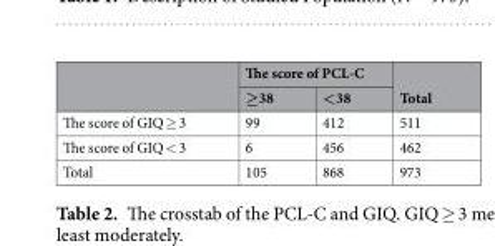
<table><thead><tr><td rowspan="2"></td><td colspan="2">The score of PCL-C</td><td rowspan="2">Total</td></tr><tr><td>≥38</td><td>&lt;38</td></tr></thead><tbody><tr><td>The score of GIQ ≥ 3</td><td>99</td><td>412</td><td>511</td></tr><tr><td>The score of GIQ &lt; 3</td><td>6</td><td>456</td><td>462</td></tr><tr><td>Total</td><td>105</td><td>868</td><td>973</td></tr></tbody></table>